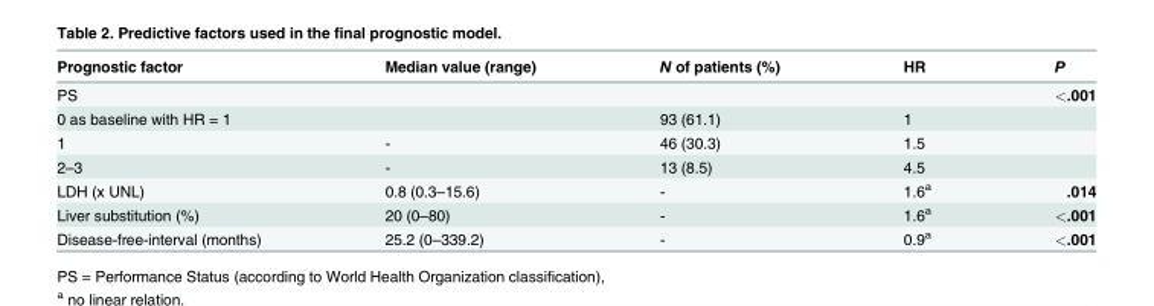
<table><thead><tr><td>Prognostic factor</td><td>Median value (range)</td><td>N of patients (%)</td><td>HR</td><td>P</td></tr></thead><tbody><tr><td>PS</td><td></td><td></td><td></td><td>&lt;.001</td></tr><tr><td>0 as baseline with HR = 1</td><td></td><td>93 (61.1)</td><td>1</td><td></td></tr><tr><td>1</td><td>-</td><td>46 (30.3)</td><td>1.5</td><td></td></tr><tr><td>2–3</td><td>-</td><td>13 (8.5)</td><td>4.5</td><td></td></tr><tr><td>LDH (x UNL)</td><td>0.8 (0.3–15.6)</td><td>-</td><td>1.6<sup>a</sup></td><td>.014</td></tr><tr><td>Liver substitution (%)</td><td>20 (0–80)</td><td>-</td><td>1.6<sup>a</sup></td><td>&lt;.001</td></tr><tr><td>Disease-free-interval (months)</td><td>25.2 (0–339.2)</td><td>-</td><td>0.9<sup>a</sup></td><td>&lt;.001</td></tr></tbody></table>